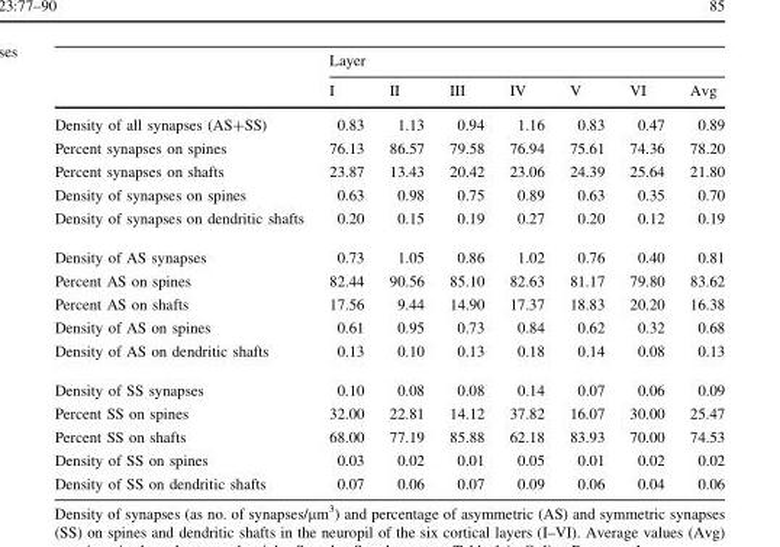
<table><thead><tr><td rowspan="2"></td><td colspan="7">Layer</td></tr><tr><td>I</td><td>II</td><td>III</td><td>IV</td><td>V</td><td>VI</td><td>Avg</td></tr></thead><tbody><tr><td>Density of all synapses (AS+SS)</td><td>0.83</td><td>1.13</td><td>0.94</td><td>1.16</td><td>0.83</td><td>0.47</td><td>0.89</td></tr><tr><td>Percent synapses on spines</td><td>76.13</td><td>86.57</td><td>79.58</td><td>76.94</td><td>75.61</td><td>74.36</td><td>78.20</td></tr><tr><td>Percent synapses on shafts</td><td>23.87</td><td>13.43</td><td>20.42</td><td>23.06</td><td>24.39</td><td>25.64</td><td>21.80</td></tr><tr><td>Density of synapses on spines</td><td>0.63</td><td>0.98</td><td>0.75</td><td>0.89</td><td>0.63</td><td>0.35</td><td>0.70</td></tr><tr><td>Density of synapses on dendritic shafts</td><td>0.20</td><td>0.15</td><td>0.19</td><td>0.27</td><td>0.20</td><td>0.12</td><td>0.19</td></tr><tr><td>Density of AS synapses</td><td>0.73</td><td>1.05</td><td>0.86</td><td>1.02</td><td>0.76</td><td>0.40</td><td>0.81</td></tr><tr><td>Percent AS on spines</td><td>82.44</td><td>90.56</td><td>85.10</td><td>82.63</td><td>81.17</td><td>79.80</td><td>83.62</td></tr><tr><td>Percent AS on shafts</td><td>17.56</td><td>9.44</td><td>14.90</td><td>17.37</td><td>18.83</td><td>20.20</td><td>16.38</td></tr><tr><td>Density of AS on spines</td><td>0.61</td><td>0.95</td><td>0.73</td><td>0.84</td><td>0.62</td><td>0.32</td><td>0.68</td></tr><tr><td>Density of AS on dendritic shafts</td><td>0.13</td><td>0.10</td><td>0.13</td><td>0.18</td><td>0.14</td><td>0.08</td><td>0.13</td></tr><tr><td>Density of SS synapses</td><td>0.10</td><td>0.08</td><td>0.08</td><td>0.14</td><td>0.07</td><td>0.06</td><td>0.09</td></tr><tr><td>Percent SS on spines</td><td>32.00</td><td>22.81</td><td>14.12</td><td>37.82</td><td>16.07</td><td>30.00</td><td>25.47</td></tr><tr><td>Percent SS on shafts</td><td>68.00</td><td>77.19</td><td>85.88</td><td>62.18</td><td>83.93</td><td>70.00</td><td>74.53</td></tr><tr><td>Density of SS on spines</td><td>0.03</td><td>0.02</td><td>0.01</td><td>0.05</td><td>0.01</td><td>0.02</td><td>0.02</td></tr><tr><td>Density of SS on dendritic shafts</td><td>0.07</td><td>0.06</td><td>0.07</td><td>0.09</td><td>0.06</td><td>0.04</td><td>0.06</td></tr></tbody></table>